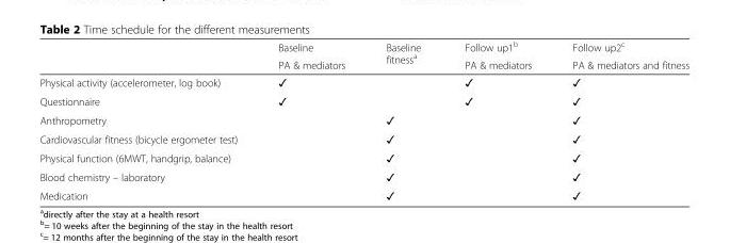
<table><thead><tr><td rowspan="2"></td><td rowspan="2">Baseline PA &amp; mediators</td><td rowspan="2">Baseline fitness<sup>a</sup></td><td rowspan="2">Follow up1<sup>b</sup> PA &amp; mediators</td><td rowspan="2">Follow up2<sup>c</sup> PA &amp; mediators and fitness</td></tr><tr></tr></thead><tbody><tr><td>Physical activity (accelerometer, log book)</td><td>✓</td><td></td><td>✓</td><td>✓</td></tr><tr><td>Questionnaire</td><td>✓</td><td></td><td>✓</td><td>✓</td></tr><tr><td>Anthropometry</td><td></td><td>✓</td><td></td><td>✓</td></tr><tr><td>Cardiovascular fitness (bicycle ergometer test)</td><td></td><td>✓</td><td></td><td>✓</td></tr><tr><td>Physical function (6MWT, handgrip, balance)</td><td></td><td>✓</td><td></td><td>✓</td></tr><tr><td>Blood chemistry – laboratory</td><td></td><td>✓</td><td></td><td>✓</td></tr><tr><td>Medication</td><td></td><td>✓</td><td></td><td>✓</td></tr></tbody></table>